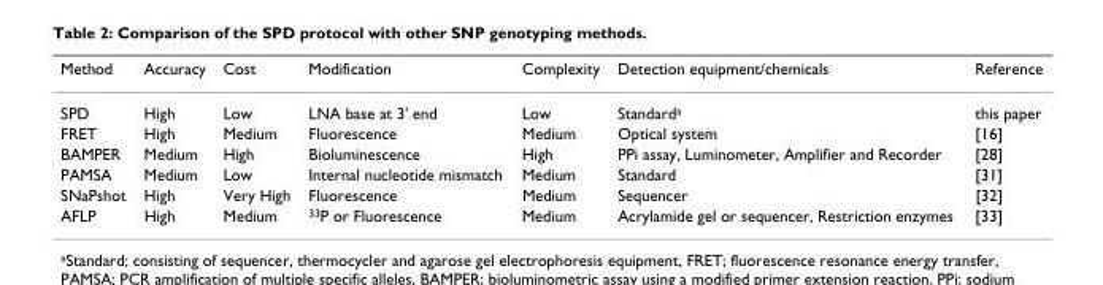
<table><thead><tr><td>Method</td><td>Accuracy</td><td>Cost</td><td>Modification</td><td>Complexity</td><td>Detection equipment/chemicals</td><td>Reference</td></tr></thead><tbody><tr><td>SPD</td><td>High</td><td>Low</td><td>LNA base at 3&#x27; end</td><td>Low</td><td>Standard<sup>a</sup></td><td>this paper</td></tr><tr><td>FRET</td><td>High</td><td>Medium</td><td>Fluorescence</td><td>Medium</td><td>Optical system</td><td>[16]</td></tr><tr><td>BAMPER</td><td>Medium</td><td>High</td><td>Bioluminescence</td><td>High</td><td>PPi assay, Luminometer, Amplifier and Recorder</td><td>[28]</td></tr><tr><td>PAMSA</td><td>Medium</td><td>Low</td><td>Internal nucleotide mismatch</td><td>Medium</td><td>Standard</td><td>[31]</td></tr><tr><td>SNaPshot</td><td>High</td><td>Very High</td><td>Fluorescence</td><td>Medium</td><td>Sequencer</td><td>[32]</td></tr><tr><td>AFLP</td><td>High</td><td>Medium</td><td><sup>33</sup>P or Fluorescence</td><td>Medium</td><td>Acrylamide gel or sequencer, Restriction enzymes</td><td>[33]</td></tr></tbody></table>